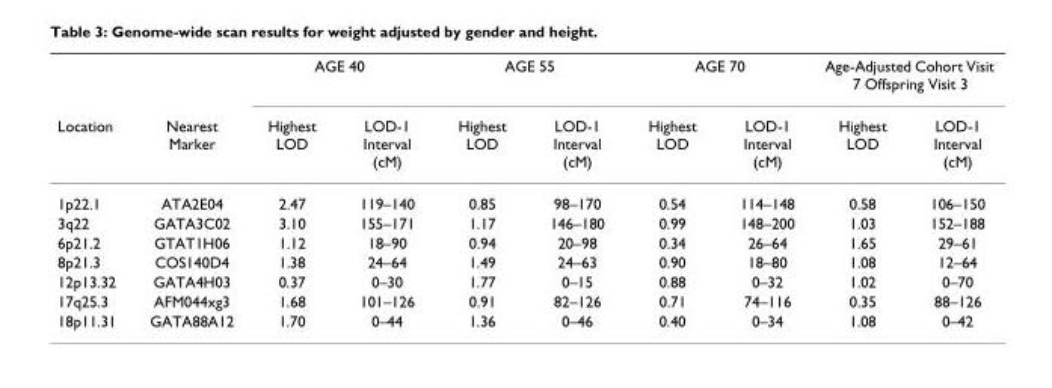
<table><thead><tr><td rowspan="2">Location</td><td rowspan="2">Nearest Marker</td><td colspan="2">AGE 40</td><td colspan="2">AGE 55</td><td colspan="2">AGE 70</td><td colspan="2">Age-Adjusted Cohort Visit 7 Offspring Visit 3</td></tr><tr><td>Highest LOD</td><td>LOD-1 Interval (cM)</td><td>Highest LOD</td><td>LOD-1 Interval (cM)</td><td>Highest LOD</td><td>LOD-1 Interval (cM)</td><td>Highest LOD</td><td>LOD-1 Interval (cM)</td></tr></thead><tbody><tr><td>1p22.1</td><td>ATA2E04</td><td>2.47</td><td>119–140</td><td>0.85</td><td>98–170</td><td>0.54</td><td>114–148</td><td>0.58</td><td>106–150</td></tr><tr><td>3q22</td><td>GATA3C02</td><td>3.10</td><td>155–171</td><td>1.17</td><td>146–180</td><td>0.99</td><td>148–200</td><td>1.03</td><td>152–188</td></tr><tr><td>6p21.2</td><td>GTAT1H06</td><td>1.12</td><td>18–90</td><td>0.94</td><td>20–98</td><td>0.34</td><td>26–64</td><td>1.65</td><td>29–61</td></tr><tr><td>8p21.3</td><td>COS140D4</td><td>1.38</td><td>24–64</td><td>1.49</td><td>24–63</td><td>0.90</td><td>18–80</td><td>1.08</td><td>12–64</td></tr><tr><td>12p13.32</td><td>GATA4H03</td><td>0.37</td><td>0–30</td><td>1.77</td><td>0–15</td><td>0.88</td><td>0–32</td><td>1.02</td><td>0–70</td></tr><tr><td>17q25.3</td><td>AFM044xg3</td><td>1.68</td><td>101–126</td><td>0.91</td><td>82–126</td><td>0.71</td><td>74–116</td><td>0.35</td><td>88–126</td></tr><tr><td>18p11.31</td><td>GATA88A12</td><td>1.70</td><td>0–44</td><td>1.36</td><td>0–46</td><td>0.40</td><td>0–34</td><td>1.08</td><td>0–42</td></tr></tbody></table>